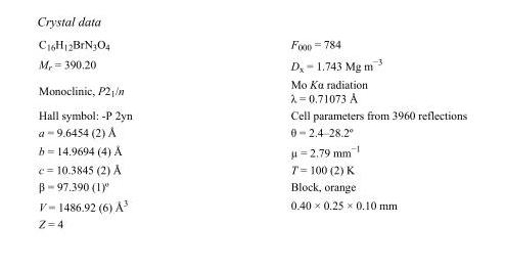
<table><tbody><tr><td>C<sub>16</sub>H<sub>12</sub>BrN<sub>3</sub>O<sub>4</sub></td><td>F000 = 784</td></tr><tr><td>M<sub>r</sub> = 390.20</td><td>D<sub>x</sub> = 1.743 Mg m<sup>−3</sup></td></tr><tr><td>Monoclinic, P2<sub>1</sub>/n</td><td>Mo Kα radiation λ = 0.71073 Å</td></tr><tr><td>Hall symbol: -P 2yn</td><td>Cell parameters from 3960 reflections</td></tr><tr><td>a = 9.6454 (2) Å</td><td>θ = 2.4–28.2º</td></tr><tr><td>b = 14.9694 (4) Å</td><td>µ = 2.79 mm<sup>−1</sup></td></tr><tr><td>c = 10.3845 (2) Å</td><td>T = 100 (2) K</td></tr><tr><td>β = 97.390 (1)º</td><td>Block, orange</td></tr><tr><td>V = 1486.92 (6) Å<sup>3</sup></td><td>0.40 × 0.25 × 0.10 mm</td></tr><tr><td>Z = 4</td><td></td></tr></tbody></table>